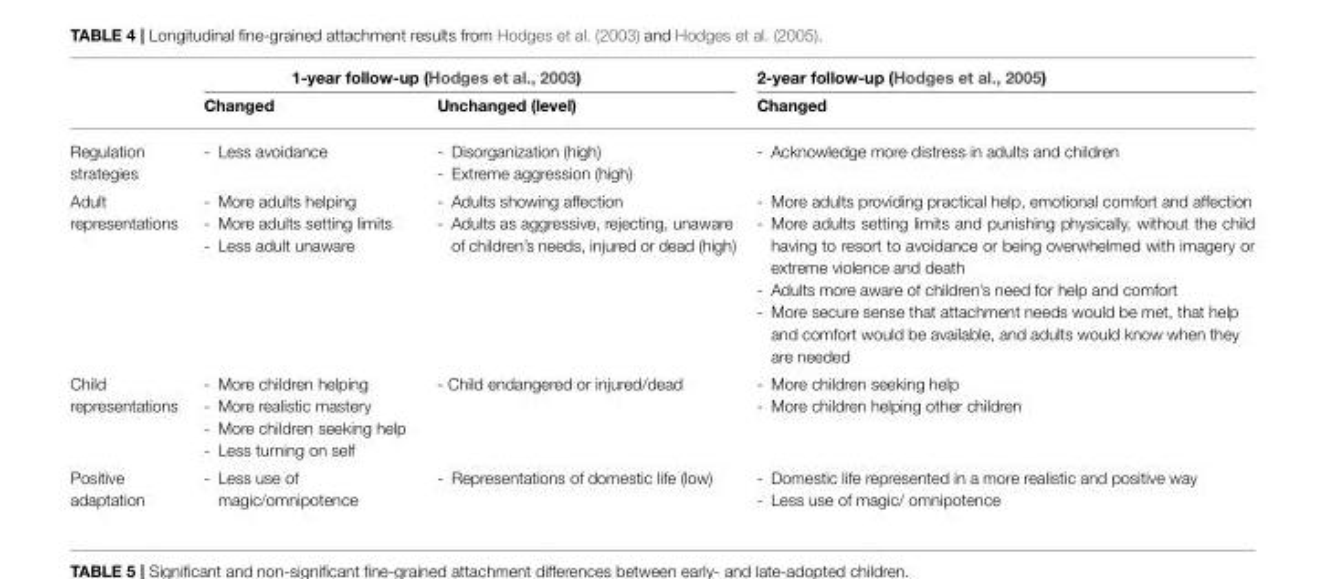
<table><thead><tr><td rowspan="2"></td><td colspan="2">1-year follow-up (Hodges et al., 2003)</td><td rowspan="2">2-year follow-up (Hodges et al., 2005) Changed</td></tr><tr><td>Changed</td><td>Unchanged (level)</td></tr></thead><tbody><tr><td>Regulation strategies</td><td>- Less avoidance</td><td>- Disorganization (high) - Extreme aggression (high)</td><td>- Acknowledge more distress in adults and children</td></tr><tr><td>Adult representations</td><td>- More adults helping - More adults setting limits - Less adult unaware</td><td>- Adults showing affection - Adults as aggressive, rejecting, unaware of children’s needs, injured or dead (high)</td><td>- More adults providing practical help, emotional comfort and affection - More adults setting limits and punishing physically, without the child having to resort to avoidance or being overwhelmed with imagery or extreme violence and death - Adults more aware of children’s need for help and comfort - More secure sense that attachment needs would be met, that help and comfort would be available, and adults would know when they are needed</td></tr><tr><td>Child representations</td><td>- More children helping - More realistic mastery - More children seeking help - Less turning on self</td><td>- Child endangered or injured/dead</td><td>- More children seeking help - More children helping other children</td></tr><tr><td>Positive adaptation</td><td>- Less use of magic/omnipotence</td><td>- Representations of domestic life (low)</td><td>- Domestic life represented in a more realistic and positive way - Less use of magic/ omnipotence</td></tr></tbody></table>